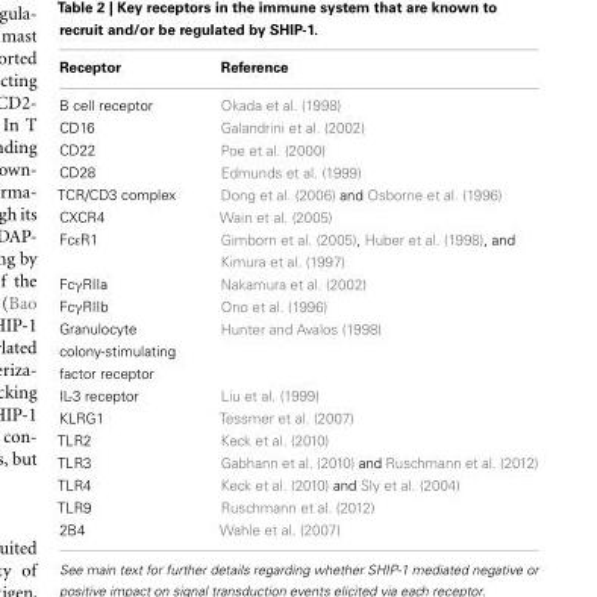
<table><thead><tr><td>Receptor</td><td>Reference</td></tr></thead><tbody><tr><td>B cell receptor</td><td>Okada et al. (1998)</td></tr><tr><td>CD16</td><td>Galandrini et al. (2002)</td></tr><tr><td>CD22</td><td>Poe et al. (2000)</td></tr><tr><td>CD28</td><td>Edmunds et al. (1999)</td></tr><tr><td>TCR/CD3 complex</td><td>Dong et al. (2006) and Osborne et al. (1996)</td></tr><tr><td>CXCR4</td><td>Wain et al. (2005)</td></tr><tr><td>FcεR1</td><td>Gimborn et al. (2005), Huber et al. (1998), and Kimura et al. (1997)</td></tr><tr><td>FcγRIIa</td><td>Nakamura et al. (2002)</td></tr><tr><td>FcγRIIb</td><td>Ono et al. (1996)</td></tr><tr><td>Granulocyte colony-stimulating factor receptor</td><td>Hunter and Avalos (1998)</td></tr><tr><td>IL-3 receptor</td><td>Liu et al. (1999)</td></tr><tr><td>KLRG1</td><td>Tessmer et al. (2007)</td></tr><tr><td>TLR2</td><td>Keck et al. (2010)</td></tr><tr><td>TLR3</td><td>Gabhann et al. (2010) and Ruschmann et al. (2012)</td></tr><tr><td>TLR4</td><td>Keck et al. (2010) and Sly et al. (2004)</td></tr><tr><td>TLR9</td><td>Ruschmann et al. (2012)</td></tr><tr><td>2B4</td><td>Wahle et al. (2007)</td></tr></tbody></table>